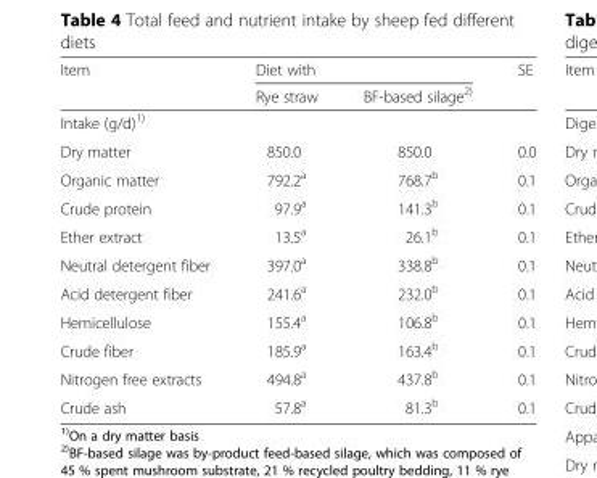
<table><thead><tr><td rowspan="2">Item</td><td colspan="2">Diet with</td><td rowspan="2">SE</td></tr><tr><td>Rye straw</td><td>BF-based silage<sup>2)</sup></td></tr></thead><tbody><tr><td colspan="4">Intake (g/d)<sup>1)</sup></td></tr><tr><td>Dry matter</td><td>850.0</td><td>850.0</td><td>0.0</td></tr><tr><td>Organic matter</td><td>792.2<sup>a</sup></td><td>768.7<sup>b</sup></td><td>0.1</td></tr><tr><td>Crude protein</td><td>97.9<sup>a</sup></td><td>141.3<sup>b</sup></td><td>0.1</td></tr><tr><td>Ether extract</td><td>13.5<sup>a</sup></td><td>26.1<sup>b</sup></td><td>0.1</td></tr><tr><td>Neutral detergent fiber</td><td>397.0<sup>a</sup></td><td>338.8<sup>b</sup></td><td>0.1</td></tr><tr><td>Acid detergent fiber</td><td>241.6<sup>a</sup></td><td>232.0<sup>b</sup></td><td>0.1</td></tr><tr><td>Hemicellulose</td><td>155.4<sup>a</sup></td><td>106.8<sup>b</sup></td><td>0.1</td></tr><tr><td>Crude fiber</td><td>185.9<sup>a</sup></td><td>163.4<sup>b</sup></td><td>0.1</td></tr><tr><td>Nitrogen free extracts</td><td>494.8<sup>a</sup></td><td>437.8<sup>b</sup></td><td>0.1</td></tr><tr><td>Crude ash</td><td>57.8<sup>a</sup></td><td>81.3<sup>b</sup></td><td>0.1</td></tr></tbody></table>